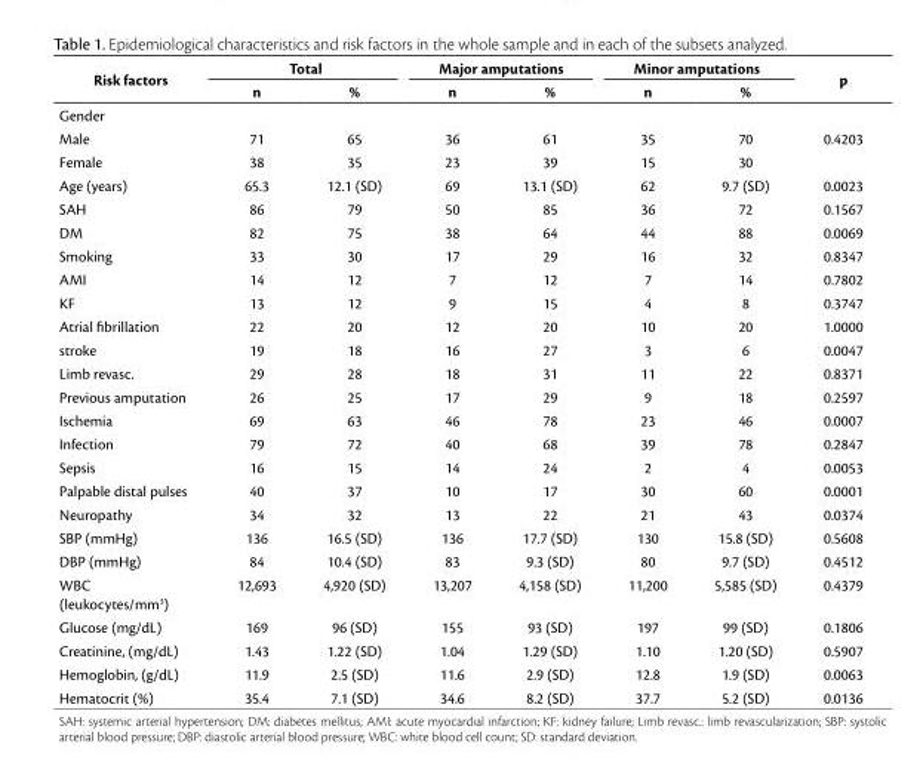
<table><thead><tr><td rowspan="2">Risk factors</td><td colspan="2">Total</td><td colspan="2">Major amputations</td><td colspan="2">Minor amputations</td><td rowspan="2">p</td></tr><tr><td>n</td><td>%</td><td>n</td><td>%</td><td>n</td><td>%</td></tr></thead><tbody><tr><td colspan="8">Gender</td></tr><tr><td>Male</td><td>71</td><td>65</td><td>36</td><td>61</td><td>35</td><td>70</td><td rowspan="2">0.4203</td></tr><tr><td>Female</td><td>38</td><td>35</td><td>23</td><td>39</td><td>15</td><td>30</td></tr><tr><td>Age (years)</td><td>65.3</td><td>12.1 (SD)</td><td>69</td><td>13.1 (SD)</td><td>62</td><td>9.7 (SD)</td><td>0.0023</td></tr><tr><td>SAH</td><td>86</td><td>79</td><td>50</td><td>85</td><td>36</td><td>72</td><td>0.1567</td></tr><tr><td>DM</td><td>82</td><td>75</td><td>38</td><td>64</td><td>44</td><td>88</td><td>0.0069</td></tr><tr><td>Smoking</td><td>33</td><td>30</td><td>17</td><td>29</td><td>16</td><td>32</td><td>0.8347</td></tr><tr><td>AMI</td><td>14</td><td>12</td><td>7</td><td>12</td><td>7</td><td>14</td><td>0.7802</td></tr><tr><td>KF</td><td>13</td><td>12</td><td>9</td><td>15</td><td>4</td><td>8</td><td>0.3747</td></tr><tr><td>Atrial fibrillation</td><td>22</td><td>20</td><td>12</td><td>20</td><td>10</td><td>20</td><td>1.0000</td></tr><tr><td>stroke</td><td>19</td><td>18</td><td>16</td><td>27</td><td>3</td><td>6</td><td>0.0047</td></tr><tr><td>Limb revasc.</td><td>29</td><td>28</td><td>18</td><td>31</td><td>11</td><td>22</td><td>0.8371</td></tr><tr><td>Previous amputation</td><td>26</td><td>25</td><td>17</td><td>29</td><td>9</td><td>18</td><td>0.2597</td></tr><tr><td>Ischemia</td><td>69</td><td>63</td><td>46</td><td>78</td><td>23</td><td>46</td><td>0.0007</td></tr><tr><td>Infection</td><td>79</td><td>72</td><td>40</td><td>68</td><td>39</td><td>78</td><td>0.2847</td></tr><tr><td>Sepsis</td><td>16</td><td>15</td><td>14</td><td>24</td><td>2</td><td>4</td><td>0.0053</td></tr><tr><td>Palpable distal pulses</td><td>40</td><td>37</td><td>10</td><td>17</td><td>30</td><td>60</td><td>0.0001</td></tr><tr><td>Neuropathy</td><td>34</td><td>32</td><td>13</td><td>22</td><td>21</td><td>43</td><td>0.0374</td></tr><tr><td>SBP (mmHg)</td><td>136</td><td>16.5 (SD)</td><td>136</td><td>17.7 (SD)</td><td>130</td><td>15.8 (SD)</td><td>0.5608</td></tr><tr><td>DBP (mmHg)</td><td>84</td><td>10.4 (SD)</td><td>83</td><td>9.3 (SD)</td><td>80</td><td>9.7 (SD)</td><td>0.4512</td></tr><tr><td>WBC (leukocytes/mm3)</td><td>12,693</td><td>4,920 (SD)</td><td>13,207</td><td>4,158 (SD)</td><td>11,200</td><td>5,585 (SD)</td><td>0.4379</td></tr><tr><td>Glucose (mg/dL)</td><td>169</td><td>96 (SD)</td><td>155</td><td>93 (SD)</td><td>197</td><td>99 (SD)</td><td>0.1806</td></tr><tr><td>Creatinine, (mg/dL)</td><td>1.43</td><td>1.22 (SD)</td><td>1.04</td><td>1.29 (SD)</td><td>1.10</td><td>1.20 (SD)</td><td>0.5907</td></tr><tr><td>Hemoglobin, (g/dL)</td><td>11.9</td><td>2.5 (SD)</td><td>11.6</td><td>2.9 (SD)</td><td>12.8</td><td>1.9 (SD)</td><td>0.0063</td></tr><tr><td>Hematocrit (%)</td><td>35.4</td><td>7.1 (SD)</td><td>34.6</td><td>8.2 (SD)</td><td>37.7</td><td>5.2 (SD)</td><td>0.0136</td></tr></tbody></table>